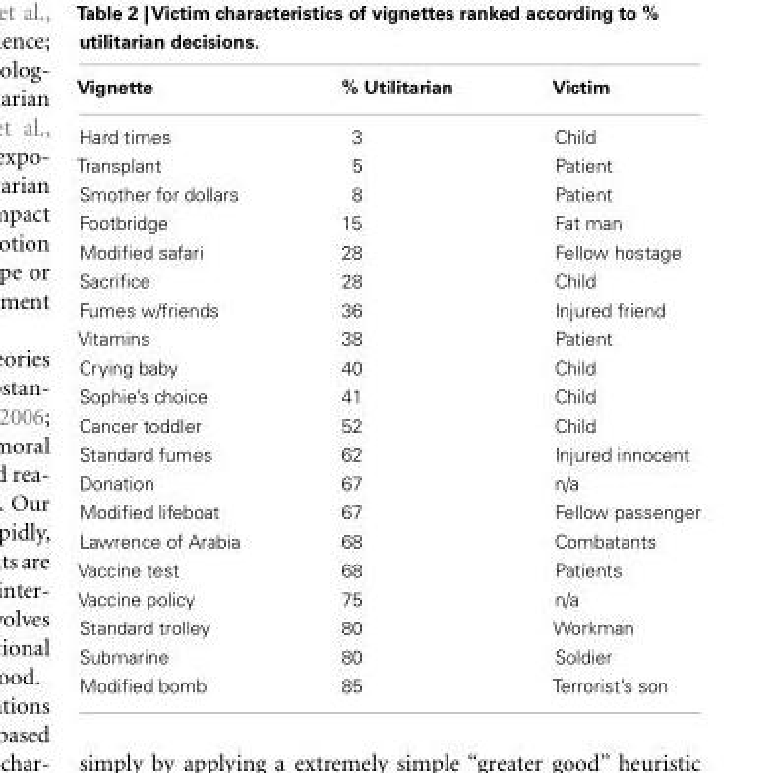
<table><thead><tr><td>Vignette</td><td>% Utilitarian</td><td>Victim</td></tr></thead><tbody><tr><td>Hard times</td><td>3</td><td>Child</td></tr><tr><td>Transplant</td><td>5</td><td>Patient</td></tr><tr><td>Smother for dollars</td><td>8</td><td>Patient</td></tr><tr><td>Footbridge</td><td>15</td><td>Fat man</td></tr><tr><td>Modified safari</td><td>28</td><td>Fellow hostage</td></tr><tr><td>Sacrifice</td><td>28</td><td>Child</td></tr><tr><td>Fumes w/friends</td><td>36</td><td>Injured friend</td></tr><tr><td>Vitamins</td><td>38</td><td>Patient</td></tr><tr><td>Crying baby</td><td>40</td><td>Child</td></tr><tr><td>Sophie’s choice</td><td>41</td><td>Child</td></tr><tr><td>Cancer toddler</td><td>52</td><td>Child</td></tr><tr><td>Standard fumes</td><td>62</td><td>Injured innocent</td></tr><tr><td>Donation</td><td>67</td><td>n/a</td></tr><tr><td>Modified lifeboat</td><td>67</td><td>Fellow passenger</td></tr><tr><td>Lawrence of Arabia</td><td>68</td><td>Combatants</td></tr><tr><td>Vaccine test</td><td>68</td><td>Patients</td></tr><tr><td>Vaccine policy</td><td>75</td><td>n/a</td></tr><tr><td>Standard trolley</td><td>80</td><td>Workman</td></tr><tr><td>Submarine</td><td>80</td><td>Soldier</td></tr><tr><td>Modified bomb</td><td>85</td><td>Terrorist’s son</td></tr></tbody></table>